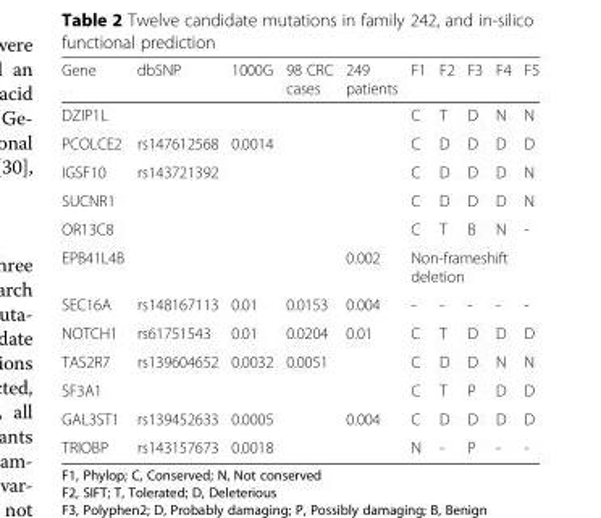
<table><thead><tr><td>Gene</td><td>dbSNP</td><td>1000G</td><td>98 CRC cases</td><td>249 patients</td><td>F1</td><td>F2</td><td>F3</td><td>F4</td><td>F5</td></tr></thead><tbody><tr><td>DZIP1L</td><td></td><td></td><td></td><td></td><td>C</td><td>T</td><td>D</td><td>N</td><td>N</td></tr><tr><td>PCOLCE2</td><td>rs147612568</td><td>0.0014</td><td></td><td></td><td>C</td><td>D</td><td>D</td><td>D</td><td>D</td></tr><tr><td>IGSF10</td><td>rs143721392</td><td></td><td></td><td></td><td>C</td><td>D</td><td>D</td><td>D</td><td>N</td></tr><tr><td>SUCNR1</td><td></td><td></td><td></td><td></td><td>C</td><td>D</td><td>D</td><td>D</td><td>N</td></tr><tr><td>OR13C8</td><td></td><td></td><td></td><td></td><td>C</td><td>T</td><td>B</td><td>N</td><td>-</td></tr><tr><td>EPB41L4B</td><td></td><td></td><td></td><td>0.002</td><td colspan="5">Non-frameshift deletion</td></tr><tr><td>SEC16A</td><td>rs148167113</td><td>0.01</td><td>0.0153</td><td>0.004</td><td>-</td><td>-</td><td>-</td><td>-</td><td>-</td></tr><tr><td>NOTCH1</td><td>rs61751543</td><td>0.01</td><td>0.0204</td><td>0.01</td><td>C</td><td>T</td><td>D</td><td>D</td><td>D</td></tr><tr><td>TAS2R7</td><td>rs139604652</td><td>0.0032</td><td>0.0051</td><td></td><td>C</td><td>D</td><td>D</td><td>N</td><td>N</td></tr><tr><td>SF3A1</td><td></td><td></td><td></td><td></td><td>C</td><td>T</td><td>P</td><td>D</td><td>D</td></tr><tr><td>GAL3ST1</td><td>rs139452633</td><td>0.0005</td><td></td><td>0.004</td><td>C</td><td>D</td><td>D</td><td>D</td><td>D</td></tr><tr><td>TRIOBP</td><td>rs143157673</td><td>0.0018</td><td></td><td></td><td>N</td><td>-</td><td>P</td><td>-</td><td>-</td></tr></tbody></table>